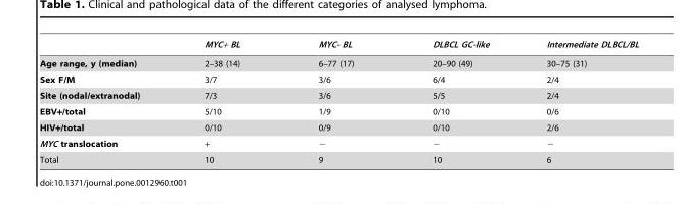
<table><thead><tr><td></td><td>MYC+ BL</td><td>MYC- BL</td><td>DLBCL GC-like</td><td>Intermediate DLBCL/BL</td></tr></thead><tbody><tr><td>Age range, y (median)</td><td>2–38 (14)</td><td>6–77 (17)</td><td>20–90 (49)</td><td>30–75 (31)</td></tr><tr><td>Sex F/M</td><td>3/7</td><td>3/6</td><td>6/4</td><td>2/4</td></tr><tr><td>Site (nodal/extranodal)</td><td>7/3</td><td>3/6</td><td>5/5</td><td>2/4</td></tr><tr><td>EBV+/total</td><td>5/10</td><td>1/9</td><td>0/10</td><td>0/6</td></tr><tr><td>HIV+/total</td><td>0/10</td><td>0/9</td><td>0/10</td><td>2/6</td></tr><tr><td>MYC translocation</td><td>+</td><td>−</td><td>−</td><td>−</td></tr><tr><td>Total</td><td>10</td><td>9</td><td>10</td><td>6</td></tr></tbody></table>